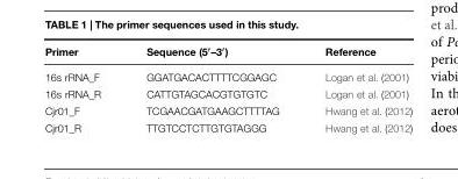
<table><thead><tr><td>Primer</td><td>Sequence (5′–3′)</td><td>Reference</td></tr></thead><tbody><tr><td>16s rRNA_F</td><td>GGATGACACTTTTCGGAGC</td><td>Logan et al. (2001)</td></tr><tr><td>16s rRNA_R</td><td>CATTGTAGCACGTGTGTC</td><td>Logan et al. (2001)</td></tr><tr><td>Cjr01_F</td><td>TCGAACGATGAAGCTTTTAG</td><td>Hwang et al. (2012)</td></tr><tr><td>Cjr01_R</td><td>TTGTCCTCTTGTGTAGGG</td><td>Hwang et al. (2012)</td></tr></tbody></table>